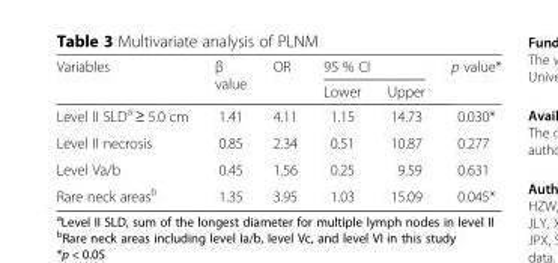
<table><thead><tr><td rowspan="2">Variables</td><td rowspan="2">β value</td><td rowspan="2">OR</td><td colspan="2">95 % CI</td><td rowspan="2">p value*</td></tr><tr><td>Lower</td><td>Upper</td></tr></thead><tbody><tr><td>Level II SLD<sup>a</sup> ≥ 5.0 cm</td><td>1.41</td><td>4.11</td><td>1.15</td><td>14.73</td><td>0.030*</td></tr><tr><td>Level II necrosis</td><td>0.85</td><td>2.34</td><td>0.51</td><td>10.87</td><td>0.277</td></tr><tr><td>Level Va/b</td><td>0.45</td><td>1.56</td><td>0.25</td><td>9.59</td><td>0.631</td></tr><tr><td>Rare neck areas<sup>b</sup></td><td>1.35</td><td>3.95</td><td>1.03</td><td>15.09</td><td>0.045*</td></tr></tbody></table>